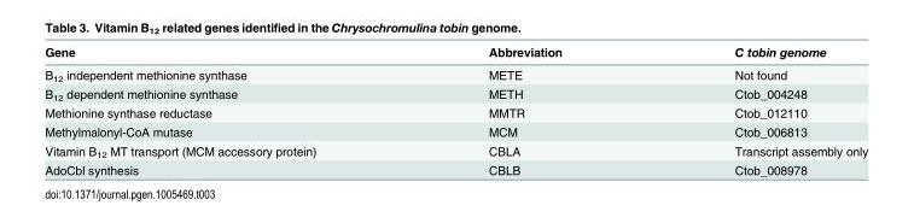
<table><thead><tr><td>Gene</td><td>Abbreviation</td><td>C tobin genome</td></tr></thead><tbody><tr><td>B<sub>12</sub> independent methionine synthase</td><td>METE</td><td>Not found</td></tr><tr><td>B<sub>12</sub> dependent methionine synthase</td><td>METH</td><td>Ctob_004248</td></tr><tr><td>Methionine synthase reductase</td><td>MMTR</td><td>Ctob_012110</td></tr><tr><td>Methylmalonyl-CoA mutase</td><td>MCM</td><td>Ctob_006813</td></tr><tr><td>Vitamin B<sub>12</sub> MT transport (MCM accessory protein)</td><td>CBLA</td><td>Transcript assembly only</td></tr><tr><td>AdoCbl synthesis</td><td>CBLB</td><td>Ctob_008978</td></tr></tbody></table>